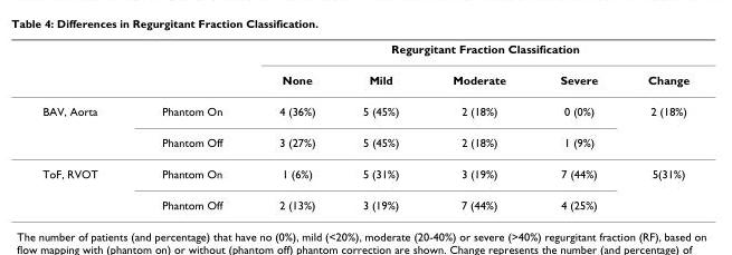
<table><thead><tr><td rowspan="2"></td><td rowspan="2"></td><td colspan="5">Regurgitant Fraction Classification</td></tr><tr><td>None</td><td>Mild</td><td>Moderate</td><td>Severe</td><td>Change</td></tr></thead><tbody><tr><td rowspan="2">BAV, Aorta</td><td>Phantom On</td><td>4 (36%)</td><td>5 (45%)</td><td>2 (18%)</td><td>0 (0%)</td><td>2 (18%)</td></tr><tr><td>Phantom Off</td><td>3 (27%)</td><td>5 (45%)</td><td>2 (18%)</td><td>1 (9%)</td><td></td></tr><tr><td rowspan="2">ToF, RVOT</td><td>Phantom On</td><td>1 (6%)</td><td>5 (31%)</td><td>3 (19%)</td><td>7 (44%)</td><td>5(31%)</td></tr><tr><td>Phantom Off</td><td>2 (13%)</td><td>3 (19%)</td><td>7 (44%)</td><td>4 (25%)</td><td></td></tr></tbody></table>